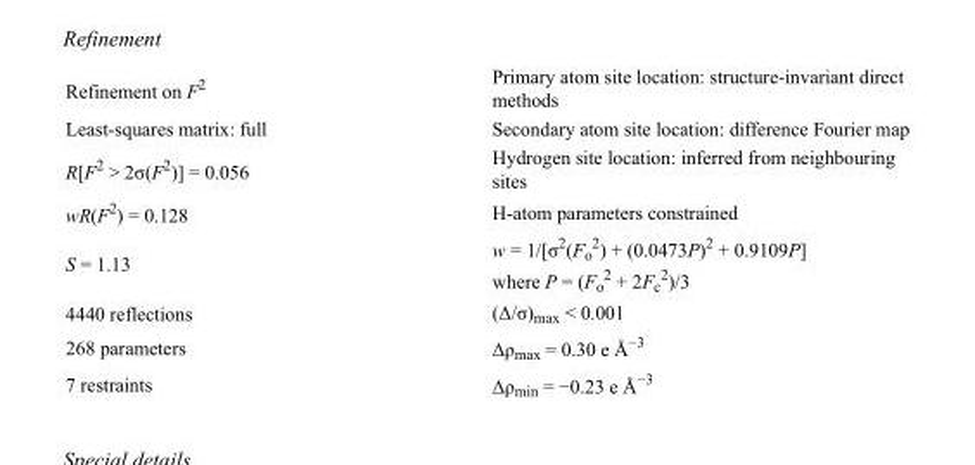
<table><tbody><tr><td>Refinement on F<sup>2</sup></td><td>Primary atom site location: structure-invariant direct methods</td></tr><tr><td>Least-squares matrix: full</td><td>Secondary atom site location: difference Fourier map</td></tr><tr><td>R[F<sup>2</sup> &gt; 2σ(F<sup>2</sup>)] = 0.056</td><td>Hydrogen site location: inferred from neighbouring sites</td></tr><tr><td>wR(F<sup>2</sup>) = 0.128</td><td>H-atom parameters constrained</td></tr><tr><td>S = 1.13</td><td>w = 1/[σ<sup>2</sup>(F<sub>o</sub> <sup>2</sup>) + (0.0473P)<sup>2</sup> + 0.9109P] where P = (F<sub>o</sub> <sup>2</sup> + 2F<sub>c</sub> <sup>2</sup>)/3</td></tr><tr><td>4440 reflections</td><td>(Δ/σ)<sub>max</sub> &lt; 0.001</td></tr><tr><td>268 parameters</td><td>Δρ<sub>max</sub> = 0.30 e Å<sup>−3</sup></td></tr><tr><td>7 restraints</td><td>Δρ<sub>min</sub> = −0.23 e Å<sup>−3</sup></td></tr></tbody></table>